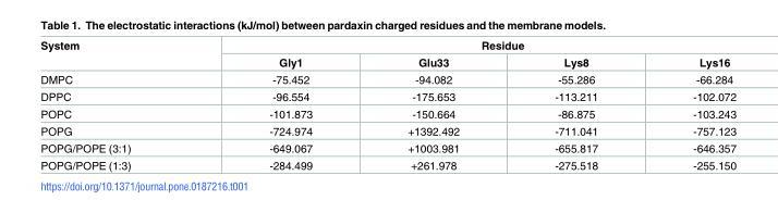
<table><thead><tr><td rowspan="2">System</td><td colspan="4">Residue</td></tr><tr><td>Gly1</td><td>Glu33</td><td>Lys8</td><td>Lys16</td></tr></thead><tbody><tr><td>DMPC</td><td>-75.452</td><td>-94.082</td><td>-55.286</td><td>-66.284</td></tr><tr><td>DPPC</td><td>-96.554</td><td>-175.653</td><td>-113.211</td><td>-102.072</td></tr><tr><td>POPC</td><td>-101.873</td><td>-150.664</td><td>-86.875</td><td>-103.243</td></tr><tr><td>POPG</td><td>-724.974</td><td>+1392.492</td><td>-711.041</td><td>-757.123</td></tr><tr><td>POPG/POPE (3:1)</td><td>-649.067</td><td>+1003.981</td><td>-655.817</td><td>-646.357</td></tr><tr><td>POPG/POPE (1:3)</td><td>-284.499</td><td>+261.978</td><td>-275.518</td><td>-255.150</td></tr></tbody></table>